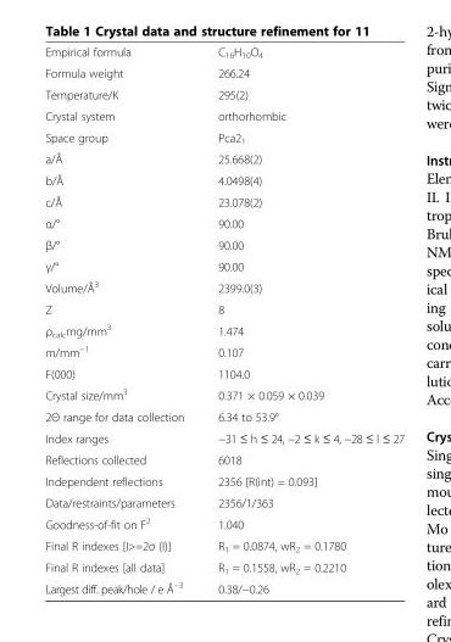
<table><tbody><tr><td>Empirical formula</td><td>C<sub>16</sub>H<sub>10</sub>O<sub>4</sub></td></tr><tr><td>Formula weight</td><td>266.24</td></tr><tr><td>Temperature/K</td><td>295(2)</td></tr><tr><td>Crystal system</td><td>orthorhombic</td></tr><tr><td>Space group</td><td>Pca2<sub>1</sub></td></tr><tr><td>a/Å</td><td>25.668(2)</td></tr><tr><td>b/Å</td><td>4.0498(4)</td></tr><tr><td>c/Å</td><td>23.078(2)</td></tr><tr><td>α/°</td><td>90.00</td></tr><tr><td>β/°</td><td>90.00</td></tr><tr><td>γ/°</td><td>90.00</td></tr><tr><td>Volume/Å<sup>3</sup></td><td>2399.0(3)</td></tr><tr><td>Z</td><td>8</td></tr><tr><td>ρ<sub>calc</sub>mg/mm<sup>3</sup></td><td>1.474</td></tr><tr><td>m/mm<sup>−1</sup></td><td>0.107</td></tr><tr><td>F(000)</td><td>1104.0</td></tr><tr><td>Crystal size/mm<sup>3</sup></td><td>0.371 × 0.059 × 0.039</td></tr><tr><td>2Θ range for data collection</td><td>6.34 to 53.9°</td></tr><tr><td>Index ranges</td><td>−31 ≤ h ≤ 24, −2 ≤ k ≤ 4, −28 ≤ l ≤ 27</td></tr><tr><td>Reflections collected</td><td>6018</td></tr><tr><td>Independent reflections</td><td>2356 [R(int) = 0.093]</td></tr><tr><td>Data/restraints/parameters</td><td>2356/1/363</td></tr><tr><td>Goodness-of-fit on F<sup>2</sup></td><td>1.040</td></tr><tr><td>Final R indexes [I&gt;=2σ (I)]</td><td>R<sub>1</sub> = 0.0874, wR<sub>2</sub> = 0.1780</td></tr><tr><td>Final R indexes [all data]</td><td>R<sub>1</sub> = 0.1558, wR<sub>2</sub> = 0.2210</td></tr><tr><td>Largest diff. peak/hole / e Å<sup>−3</sup></td><td>0.38/−0.26</td></tr></tbody></table>